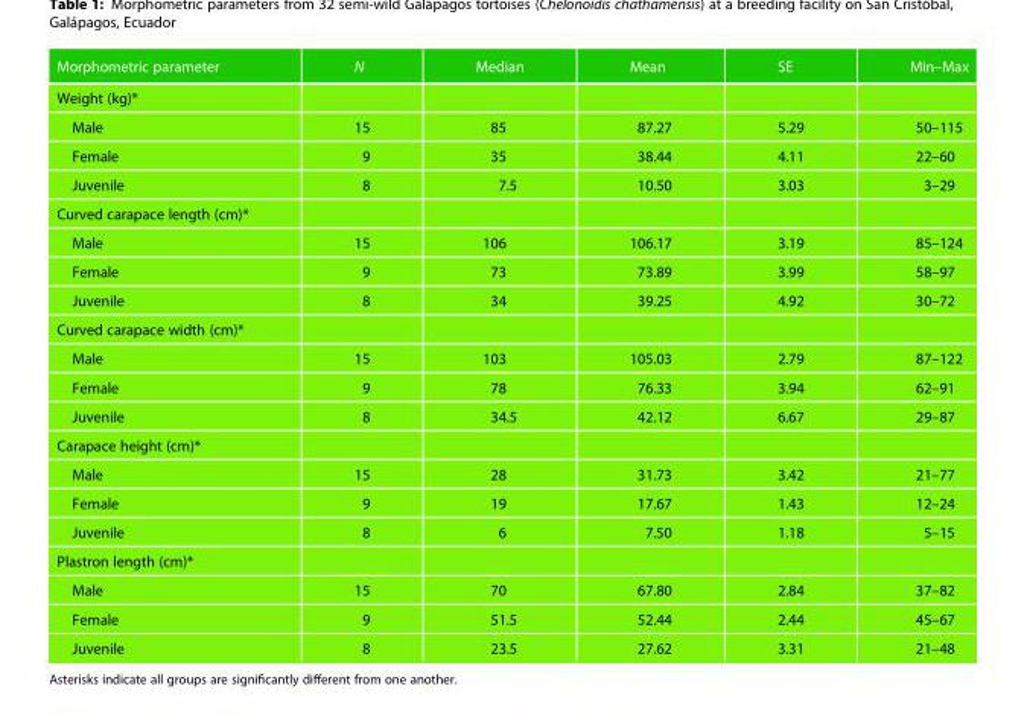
<table><thead><tr><td>Morphometric parameter</td><td>N</td><td>Median</td><td>Mean</td><td>SE</td><td>Min–Max</td></tr></thead><tbody><tr><td colspan="6">Weight (kg)*</td></tr><tr><td>Male</td><td>15</td><td>85</td><td>87.27</td><td>5.29</td><td>50–115</td></tr><tr><td>Female</td><td>9</td><td>35</td><td>38.44</td><td>4.11</td><td>22–60</td></tr><tr><td>Juvenile</td><td>8</td><td>7.5</td><td>10.50</td><td>3.03</td><td>3–29</td></tr><tr><td colspan="6">Curved carapace length (cm)*</td></tr><tr><td>Male</td><td>15</td><td>106</td><td>106.17</td><td>3.19</td><td>85–124</td></tr><tr><td>Female</td><td>9</td><td>73</td><td>73.89</td><td>3.99</td><td>58–97</td></tr><tr><td>Juvenile</td><td>8</td><td>34</td><td>39.25</td><td>4.92</td><td>30–72</td></tr><tr><td colspan="6">Curved carapace width (cm)*</td></tr><tr><td>Male</td><td>15</td><td>103</td><td>105.03</td><td>2.79</td><td>87–122</td></tr><tr><td>Female</td><td>9</td><td>78</td><td>76.33</td><td>3.94</td><td>62–91</td></tr><tr><td>Juvenile</td><td>8</td><td>34.5</td><td>42.12</td><td>6.67</td><td>29–87</td></tr><tr><td colspan="6">Carapace height (cm)*</td></tr><tr><td>Male</td><td>15</td><td>28</td><td>31.73</td><td>3.42</td><td>21–77</td></tr><tr><td>Female</td><td>9</td><td>19</td><td>17.67</td><td>1.43</td><td>12–24</td></tr><tr><td>Juvenile</td><td>8</td><td>6</td><td>7.50</td><td>1.18</td><td>5–15</td></tr><tr><td colspan="6">Plastron length (cm)*</td></tr><tr><td>Male</td><td>15</td><td>70</td><td>67.80</td><td>2.84</td><td>37–82</td></tr><tr><td>Female</td><td>9</td><td>51.5</td><td>52.44</td><td>2.44</td><td>45–67</td></tr><tr><td>Juvenile</td><td>8</td><td>23.5</td><td>27.62</td><td>3.31</td><td>21–48</td></tr></tbody></table>